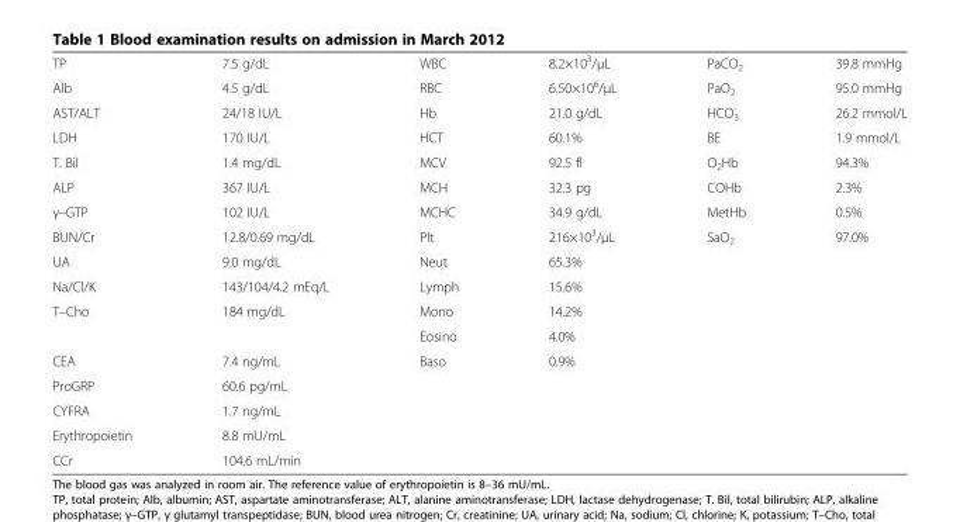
<table><tbody><tr><td>TP</td><td>7.5 g/dL</td><td>WBC</td><td>8.2×10<sup>3</sup>/μL</td><td>PaCO<sub>2</sub></td><td>39.8 mmHg</td></tr><tr><td>Alb</td><td>4.5 g/dL</td><td>RBC</td><td>6.50×10<sup>6</sup>/μL</td><td>PaO<sub>2</sub></td><td>95.0 mmHg</td></tr><tr><td>AST/ALT</td><td>24/18 IU/L</td><td>Hb</td><td>21.0 g/dL</td><td>HCO<sub>3</sub> <sup>-</sup></td><td>26.2 mmol/L</td></tr><tr><td>LDH</td><td>170 IU/L</td><td>HCT</td><td>60.1%</td><td>BE</td><td>1.9 mmol/L</td></tr><tr><td>T. Bil</td><td>1.4 mg/dL</td><td>MCV</td><td>92.5 fl</td><td>O<sub>2</sub>Hb</td><td>94.3%</td></tr><tr><td>ALP</td><td>367 IU/L</td><td>MCH</td><td>32.3 pg</td><td>COHb</td><td>2.3%</td></tr><tr><td>γ–GTP</td><td>102 IU/L</td><td>MCHC</td><td>34.9 g/dL</td><td>MetHb</td><td>0.5%</td></tr><tr><td>BUN/Cr</td><td>12.8/0.69 mg/dL</td><td>Plt</td><td>216×10<sup>3</sup>/μL</td><td>SaO<sub>2</sub></td><td>97.0%</td></tr><tr><td>UA</td><td>9.0 mg/dL</td><td>Neut</td><td>65.3%</td><td></td><td></td></tr><tr><td>Na/Cl/K</td><td>143/104/4.2 mEq/L</td><td>Lymph</td><td>15.6%</td><td></td><td></td></tr><tr><td rowspan="2">T–Cho</td><td>184 mg/dL</td><td>Mono</td><td>14.2%</td><td></td><td></td></tr><tr><td></td><td>Eosino</td><td>4.0%</td><td></td><td></td></tr><tr><td>CEA</td><td>7.4 ng/mL</td><td>Baso</td><td>0.9%</td><td></td><td></td></tr><tr><td>ProGRP</td><td>60.6 pg/mL</td><td></td><td></td><td></td><td></td></tr><tr><td>CYFRA</td><td>1.7 ng/mL</td><td></td><td></td><td></td><td></td></tr><tr><td>Erythropoietin</td><td>8.8 mU/mL</td><td></td><td></td><td></td><td></td></tr><tr><td>CCr</td><td>104.6 mL/min</td><td></td><td></td><td></td><td></td></tr></tbody></table>